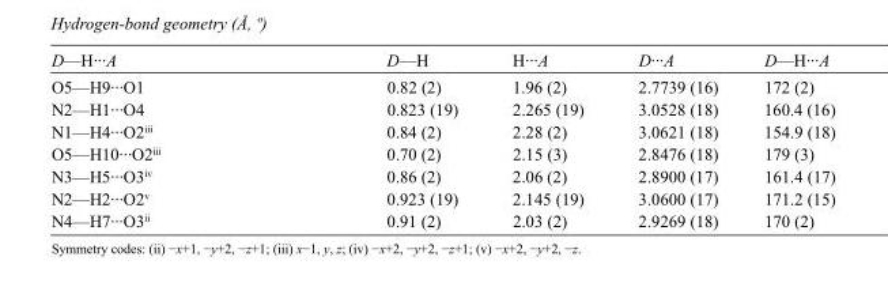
<table><tbody><tr><td>D—H···A</td><td>D—H</td><td>H···A</td><td>D···A</td><td>D—H···A</td></tr><tr><td>O5—H9···O1</td><td>0.82 (2)</td><td>1.96 (2)</td><td>2.7739 (16)</td><td>172 (2)</td></tr><tr><td>N2—H1···O4</td><td>0.823 (19)</td><td>2.265 (19)</td><td>3.0528 (18)</td><td>160.4 (16)</td></tr><tr><td>N1—H4···O2<sup>iii</sup></td><td>0.84 (2)</td><td>2.28 (2)</td><td>3.0621 (18)</td><td>154.9 (18)</td></tr><tr><td>O5—H10···O2<sup>iii</sup></td><td>0.70 (2)</td><td>2.15 (3)</td><td>2.8476 (18)</td><td>179 (3)</td></tr><tr><td>N3—H5···O3<sup>iv</sup></td><td>0.86 (2)</td><td>2.06 (2)</td><td>2.8900 (17)</td><td>161.4 (17)</td></tr><tr><td>N2—H2···O2<sup>v</sup></td><td>0.923 (19)</td><td>2.145 (19)</td><td>3.0600 (17)</td><td>171.2 (15)</td></tr><tr><td>N4—H7···O3<sup>ii</sup></td><td>0.91 (2)</td><td>2.03 (2)</td><td>2.9269 (18)</td><td>170 (2)</td></tr></tbody></table>